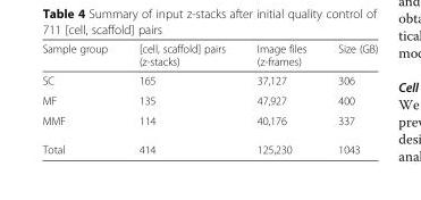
<table><thead><tr><td>Sample group</td><td>[cell, scaffold] pairs (z-stacks)</td><td>Image files (z-frames)</td><td>Size (GB)</td></tr></thead><tbody><tr><td>SC</td><td>165</td><td>37,127</td><td>306</td></tr><tr><td>MF</td><td>135</td><td>47,927</td><td>400</td></tr><tr><td>MMF</td><td>114</td><td>40,176</td><td>337</td></tr><tr><td>Total</td><td>414</td><td>125,230</td><td>1043</td></tr></tbody></table>